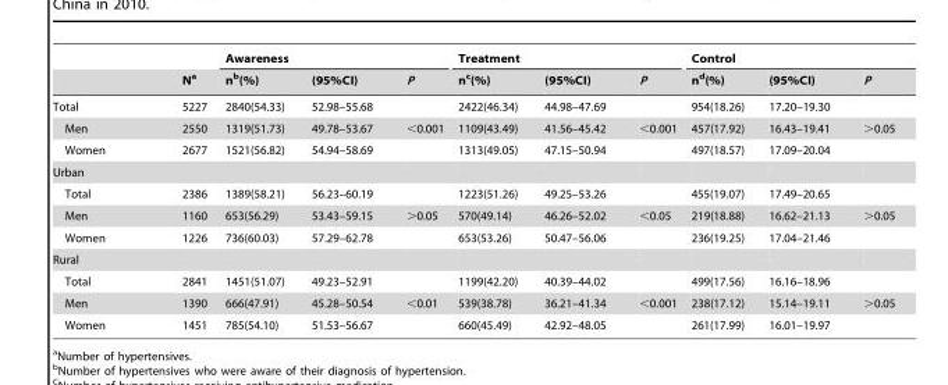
<table><thead><tr><td rowspan="2"></td><td rowspan="2">N<sup>a</sup></td><td rowspan="2">Awareness n<sup>b</sup>(%)</td><td rowspan="2">(95%CI)</td><td rowspan="2">P</td><td rowspan="2">Treatment n<sup>c</sup>(%)</td><td rowspan="2">(95%CI)</td><td rowspan="2">P</td><td rowspan="2">Control n<sup>d</sup>(%)</td><td rowspan="2">(95%CI)</td><td rowspan="2">P</td></tr><tr></tr></thead><tbody><tr><td>Total</td><td>5227</td><td>2840(54.33)</td><td>52.98–55.68</td><td></td><td>2422(46.34)</td><td>44.98–47.69</td><td></td><td>954(18.26)</td><td>17.20–19.30</td><td></td></tr><tr><td>Men</td><td>2550</td><td>1319(51.73)</td><td>49.78–53.67</td><td>&lt;0.001</td><td>1109(43.49)</td><td>41.56–45.42</td><td>&lt;0.001</td><td>457(17.92)</td><td>16.43–19.41</td><td>&gt;0.05</td></tr><tr><td>Women</td><td>2677</td><td>1521(56.82)</td><td>54.94–58.69</td><td></td><td>1313(49.05)</td><td>47.15–50.94</td><td></td><td>497(18.57)</td><td>17.09–20.04</td><td></td></tr><tr><td colspan="11">Urban</td></tr><tr><td>Total</td><td>2386</td><td>1389(58.21)</td><td>56.23–60.19</td><td></td><td>1223(51.26)</td><td>49.25–53.26</td><td></td><td>455(19.07)</td><td>17.49–20.65</td><td></td></tr><tr><td>Men</td><td>1160</td><td>653(56.29)</td><td>53.43–59.15</td><td>&gt;0.05</td><td>570(49.14)</td><td>46.26–52.02</td><td>&lt;0.05</td><td>219(18.88)</td><td>16.62–21.13</td><td>&gt;0.05</td></tr><tr><td>Women</td><td>1226</td><td>736(60.03)</td><td>57.29–62.78</td><td></td><td>653(53.26)</td><td>50.47–56.06</td><td></td><td>236(19.25)</td><td>17.04–21.46</td><td></td></tr><tr><td colspan="11">Rural</td></tr><tr><td>Total</td><td>2841</td><td>1451(51.07)</td><td>49.23–52.91</td><td></td><td>1199(42.20)</td><td>40.39–44.02</td><td></td><td>499(17.56)</td><td>16.16–18.96</td><td></td></tr><tr><td>Men</td><td>1390</td><td>666(47.91)</td><td>45.28–50.54</td><td>&lt;0.01</td><td>539(38.78)</td><td>36.21–41.34</td><td>&lt;0.001</td><td>238(17.12)</td><td>15.14–19.11</td><td>&gt;0.05</td></tr><tr><td>Women</td><td>1451</td><td>785(54.10)</td><td>51.53–56.67</td><td></td><td>660(45.49)</td><td>42.92–48.05</td><td></td><td>261(17.99)</td><td>16.01–19.97</td><td></td></tr></tbody></table>